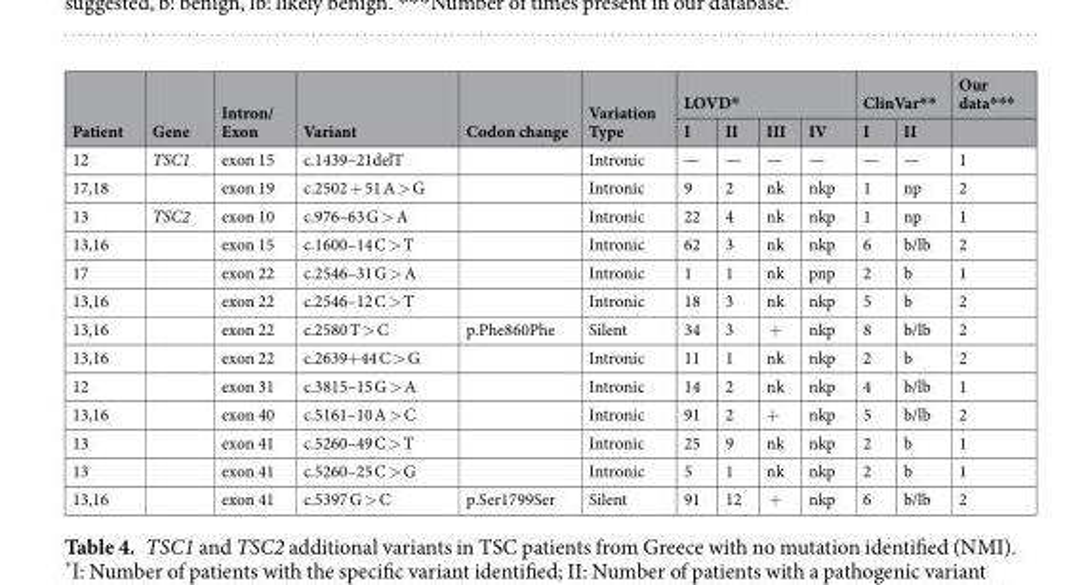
<table><thead><tr><td rowspan="2">Patient</td><td rowspan="2">Gene</td><td rowspan="2">Intron/ Exon</td><td rowspan="2">Variant</td><td rowspan="2">Codon change</td><td rowspan="2">Variation Type</td><td colspan="4">LOVD*</td><td colspan="2">ClinVar**</td><td rowspan="2">Our data***</td></tr><tr><td>I</td><td>II</td><td>III</td><td>IV</td><td>I</td><td>II</td></tr></thead><tbody><tr><td>12</td><td>TSC1</td><td>exon 15</td><td>c.1439–21delT</td><td></td><td>Intronic</td><td>—</td><td>—</td><td>—</td><td>—</td><td>—</td><td>—</td><td>1</td></tr><tr><td>17,18</td><td></td><td>exon 19</td><td>c.2502 + 51 A &gt; G</td><td></td><td>Intronic</td><td>9</td><td>2</td><td>nk</td><td>nkp</td><td>1</td><td>np</td><td>2</td></tr><tr><td>13</td><td>TSC2</td><td>exon 10</td><td>c.976–63 G &gt; A</td><td></td><td>Intronic</td><td>22</td><td>4</td><td>nk</td><td>nkp</td><td>1</td><td>np</td><td>1</td></tr><tr><td>13,16</td><td></td><td>exon 15</td><td>c.1600–14 C &gt; T</td><td></td><td>Intronic</td><td>62</td><td>3</td><td>nk</td><td>nkp</td><td>6</td><td>b/lb</td><td>2</td></tr><tr><td>17</td><td></td><td>exon 22</td><td>c.2546–31 G &gt; A</td><td></td><td>Intronic</td><td>1</td><td>1</td><td>nk</td><td>pnp</td><td>2</td><td>b</td><td>1</td></tr><tr><td>13,16</td><td></td><td>exon 22</td><td>c.2546–12 C &gt; T</td><td></td><td>Intronic</td><td>18</td><td>3</td><td>nk</td><td>nkp</td><td>5</td><td>b</td><td>2</td></tr><tr><td>13,16</td><td></td><td>exon 22</td><td>c.2580 T &gt; C</td><td>p.Phe860Phe</td><td>Silent</td><td>34</td><td>3</td><td>+</td><td>nkp</td><td>8</td><td>b/lb</td><td>2</td></tr><tr><td>13,16</td><td></td><td>exon 22</td><td>c.2639+44 C &gt; G</td><td></td><td>Intronic</td><td>11</td><td>1</td><td>nk</td><td>nkp</td><td>2</td><td>b</td><td>2</td></tr><tr><td>12</td><td></td><td>exon 31</td><td>c.3815–15 G &gt; A</td><td></td><td>Intronic</td><td>14</td><td>2</td><td>nk</td><td>nkp</td><td>4</td><td>b/lb</td><td>1</td></tr><tr><td>13,16</td><td></td><td>exon 40</td><td>c.5161–10 A &gt; C</td><td></td><td>Intronic</td><td>91</td><td>2</td><td>+</td><td>nkp</td><td>5</td><td>b/lb</td><td>2</td></tr><tr><td>13</td><td></td><td>exon 41</td><td>c.5260–49 C &gt; T</td><td></td><td>Intronic</td><td>25</td><td>9</td><td>nk</td><td>nkp</td><td>2</td><td>b</td><td>1</td></tr><tr><td>13</td><td></td><td>exon 41</td><td>c.5260–25 C &gt; G</td><td></td><td>Intronic</td><td>5</td><td>1</td><td>nk</td><td>nkp</td><td>2</td><td>b</td><td>1</td></tr><tr><td>13,16</td><td></td><td>exon 41</td><td>c.5397 G &gt; C</td><td>p.Ser1799Ser</td><td>Silent</td><td>91</td><td>12</td><td>+</td><td>nkp</td><td>6</td><td>b/lb</td><td>2</td></tr></tbody></table>